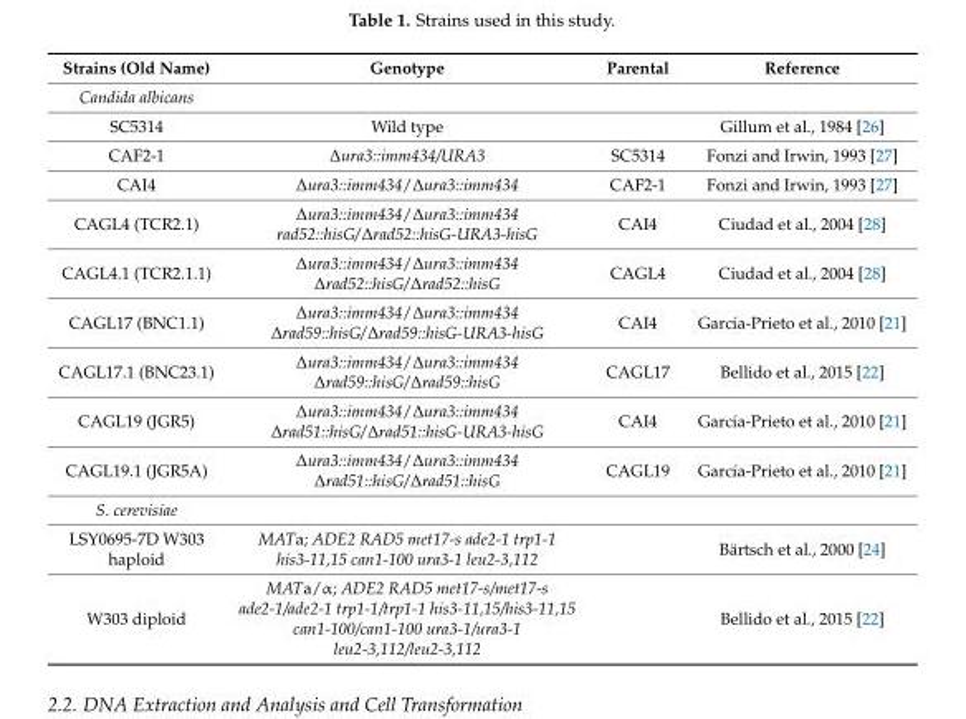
<table><thead><tr><td>Strains (Old Name)</td><td>Genotype</td><td>Parental</td><td>Reference</td></tr></thead><tbody><tr><td colspan="4">Candida albicans</td></tr><tr><td>SC5314</td><td>Wild type</td><td></td><td>Gillum et al., 1984 [26]</td></tr><tr><td>CAF2-1</td><td>∆ura3::imm434/URA3</td><td>SC5314</td><td>Fonzi and Irwin, 1993 [27]</td></tr><tr><td>CAI4</td><td>∆ura3::imm434/∆ura3::imm434</td><td>CAF2-1</td><td>Fonzi and Irwin, 1993 [27]</td></tr><tr><td>CAGL4 (TCR2.1)</td><td>∆ura3::imm434/∆ura3::imm434 rad52::hisG/∆rad52::hisG-URA3-hisG</td><td>CAI4</td><td>Ciudad et al., 2004 [28]</td></tr><tr><td>CAGL4.1 (TCR2.1.1)</td><td>∆ura3::imm434/∆ura3::imm434 ∆rad52::hisG/∆rad52::hisG</td><td>CAGL4</td><td>Ciudad et al., 2004 [28]</td></tr><tr><td>CAGL17 (BNC1.1)</td><td>∆ura3::imm434/∆ura3::imm434 ∆rad59::hisG/∆rad59::hisG-URA3-hisG</td><td>CAI4</td><td>García-Prieto et al., 2010 [21]</td></tr><tr><td>CAGL17.1 (BNC23.1)</td><td>∆ura3::imm434/∆ura3::imm434 ∆rad59::hisG/∆rad59::hisG</td><td>CAGL17</td><td>Bellido et al., 2015 [22]</td></tr><tr><td>CAGL19 (JGR5)</td><td>∆ura3::imm434/∆ura3::imm434 ∆rad51::hisG/∆rad51::hisG-URA3-hisG</td><td>CAI4</td><td>García-Prieto et al., 2010 [21]</td></tr><tr><td>CAGL19.1 (JGR5A)</td><td>∆ura3::imm434/∆ura3::imm434 ∆rad51::hisG/∆rad51::hisG</td><td>CAGL19</td><td>García-Prieto et al., 2010 [21]</td></tr><tr><td colspan="4">S. cerevisiae</td></tr><tr><td>LSY0695-7D W303 haploid</td><td>MATa; ADE2 RAD5 met17-s ade2-1 trp1-1 his3-11,15 can1-100 ura3-1 leu2-3,112</td><td></td><td>Bärtsch et al., 2000 [24]</td></tr><tr><td>W303 diploid</td><td>MATa/α; ADE2 RAD5 met17-s/met17-s ade2-1/ade2-1 trp1-1/trp1-1 his3-11,15/his3-11,15 can1-100/can1-100 ura3-1/ura3-1 leu2-3,112/leu2-3,112</td><td></td><td>Bellido et al., 2015 [22]</td></tr></tbody></table>